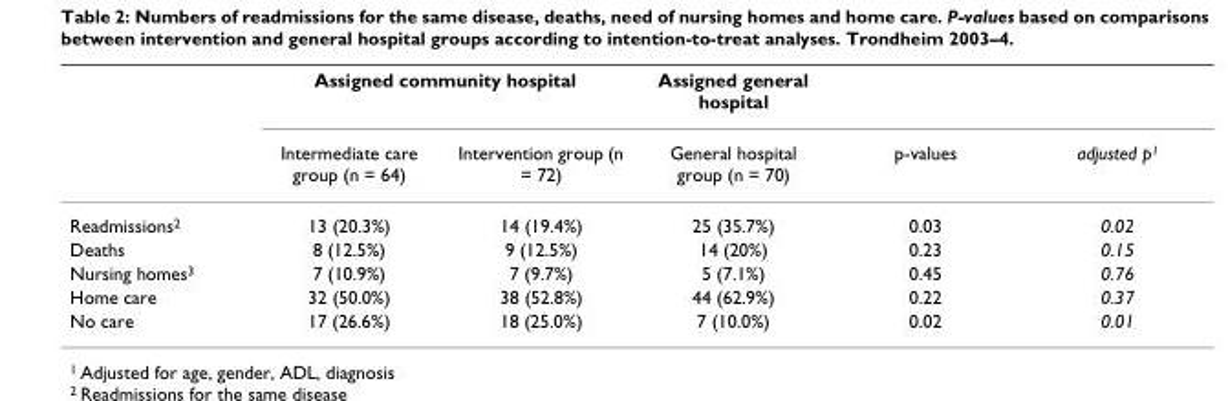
<table><thead><tr><td rowspan="2"></td><td colspan="2">Assigned community hospital</td><td rowspan="2">Assigned general hospital General hospital group (n = 70)</td><td rowspan="2">p-values</td><td rowspan="2">adjusted p<sup>1</sup></td></tr><tr><td>Intermediate care group (n = 64)</td><td>Intervention group (n = 72)</td></tr></thead><tbody><tr><td>Readmissions<sup>2</sup></td><td>13 (20.3%)</td><td>14 (19.4%)</td><td>25 (35.7%)</td><td>0.03</td><td>0.02</td></tr><tr><td>Deaths</td><td>8 (12.5%)</td><td>9 (12.5%)</td><td>14 (20%)</td><td>0.23</td><td>0.15</td></tr><tr><td>Nursing homes<sup>3</sup></td><td>7 (10.9%)</td><td>7 (9.7%)</td><td>5 (7.1%)</td><td>0.45</td><td>0.76</td></tr><tr><td>Home care</td><td>32 (50.0%)</td><td>38 (52.8%)</td><td>44 (62.9%)</td><td>0.22</td><td>0.37</td></tr><tr><td>No care</td><td>17 (26.6%)</td><td>18 (25.0%)</td><td>7 (10.0%)</td><td>0.02</td><td>0.01</td></tr></tbody></table>